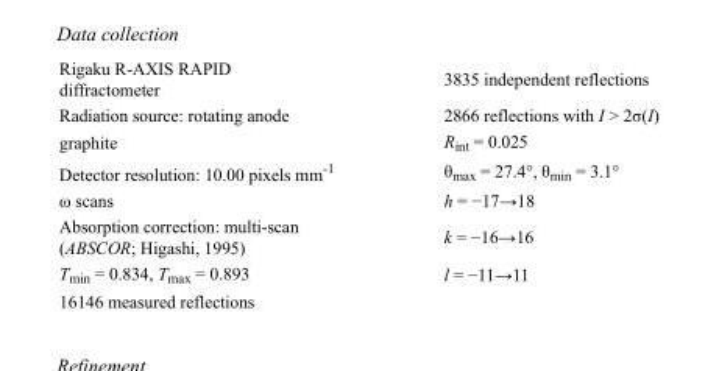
<table><tbody><tr><td>Rigaku R-AXIS RAPID diffractometer</td><td>3835 independent reflections</td></tr><tr><td>Radiation source: rotating anode</td><td>2866 reflections with I &gt; 2σ(I)</td></tr><tr><td>graphite</td><td>R<sub>int</sub> = 0.025</td></tr><tr><td>Detector resolution: 10.00 pixels mm<sup>-1</sup></td><td>θ<sub>max</sub> = 27.4°, θ<sub>min</sub> = 3.1°</td></tr><tr><td>ω scans</td><td>h = −17→18</td></tr><tr><td>Absorption correction: multi-scan (ABSCOR; Higashi, 1995)</td><td>k = −16→16</td></tr><tr><td>T<sub>min</sub> = 0.834, T<sub>max</sub> = 0.893</td><td>l = −11→11</td></tr><tr><td>16146 measured reflections</td><td></td></tr></tbody></table>